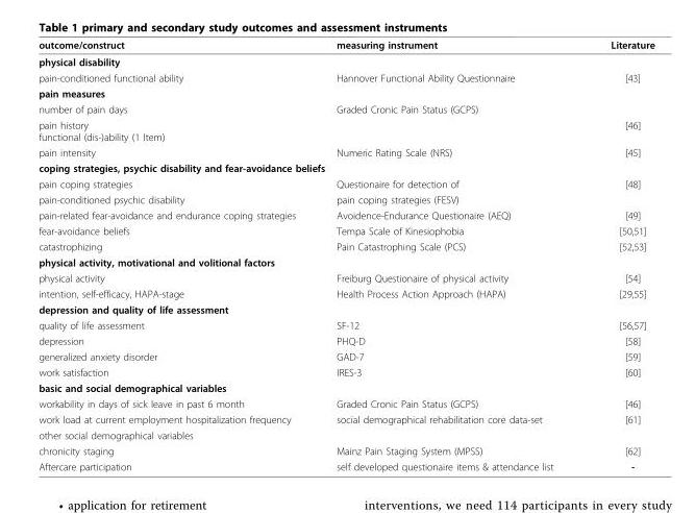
<table><thead><tr><td>outcome/construct</td><td>measuring instrument</td><td>Literature</td></tr></thead><tbody><tr><td colspan="3">physical disability</td></tr><tr><td>pain-conditioned functional ability</td><td>Hannover Functional Ability Questionnaire</td><td>[43]</td></tr><tr><td colspan="3">pain measures</td></tr><tr><td>number of pain days</td><td>Graded Cronic Pain Status (GCPS)</td><td></td></tr><tr><td>pain history functional (dis-)ability (1 Item)</td><td></td><td>[46]</td></tr><tr><td>pain intensity</td><td>Numeric Rating Scale (NRS)</td><td>[45]</td></tr><tr><td colspan="3">coping strategies, psychic disability and fear-avoidance beliefs</td></tr><tr><td>pain coping strategies</td><td>Questionaire for detection of</td><td>[48]</td></tr><tr><td>pain-conditioned psychic disability</td><td>pain coping strategies (FESV)</td><td></td></tr><tr><td>pain-related fear-avoidance and endurance coping strategies</td><td>Avoidence-Endurance Questionaire (AEQ)</td><td>[49]</td></tr><tr><td>fear-avoidance beliefs</td><td>Tempa Scale of Kinesiophobia</td><td>[50,51]</td></tr><tr><td>catastrophizing</td><td>Pain Catastrophing Scale (PCS)</td><td>[52,53]</td></tr><tr><td colspan="3">physical activity, motivational and volitional factors</td></tr><tr><td>physical activity</td><td>Freiburg Questionaire of physical activity</td><td>[54]</td></tr><tr><td>intention, self-efficacy, HAPA-stage</td><td>Health Process Action Approach (HAPA)</td><td>[29,55]</td></tr><tr><td colspan="3">depression and quality of life assessment</td></tr><tr><td>quality of life assessment</td><td>SF-12</td><td>[56,57]</td></tr><tr><td>depression</td><td>PHQ-D</td><td>[58]</td></tr><tr><td>generalized anxiety disorder</td><td>GAD-7</td><td>[59]</td></tr><tr><td>work satisfaction</td><td>IRES-3</td><td>[60]</td></tr><tr><td colspan="3">basic and social demographical variables</td></tr><tr><td>workability in days of sick leave in past 6 month</td><td>Graded Cronic Pain Status (GCPS)</td><td>[46]</td></tr><tr><td>work load at current employment hospitalization frequency</td><td>social demographical rehabilitation core data-set</td><td>[61]</td></tr><tr><td colspan="3">other social demographical variables</td></tr><tr><td>chronicity staging</td><td>Mainz Pain Staging System (MPSS)</td><td>[62]</td></tr><tr><td>Aftercare participation</td><td>self developed questionaire items &amp; attendance list</td><td>-</td></tr></tbody></table>